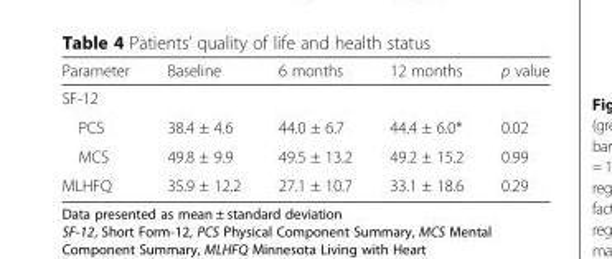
<table><thead><tr><td>Parameter</td><td>Baseline</td><td>6 months</td><td>12 months</td><td>p value</td></tr></thead><tbody><tr><td colspan="5">SF-12</td></tr><tr><td>PCS</td><td>38.4 ± 4.6</td><td>44.0 ± 6.7</td><td>44.4 ± 6.0*</td><td>0.02</td></tr><tr><td>MCS</td><td>49.8 ± 9.9</td><td>49.5 ± 13.2</td><td>49.2 ± 15.2</td><td>0.99</td></tr><tr><td>MLHFQ</td><td>35.9 ± 12.2</td><td>27.1 ± 10.7</td><td>33.1 ± 18.6</td><td>0.29</td></tr></tbody></table>